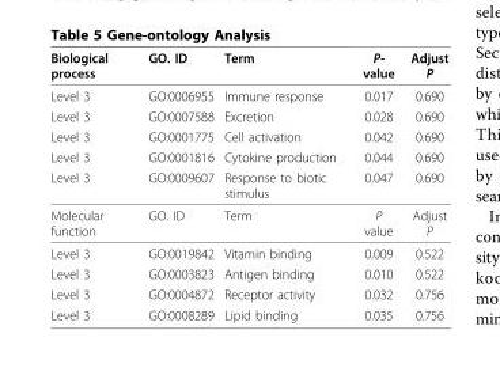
<table><thead><tr><td>Biological process</td><td>GO. ID</td><td>Term</td><td>P- value</td><td>Adjust P</td></tr></thead><tbody><tr><td>Level 3</td><td>GO:0006955</td><td>Immune response</td><td>0.017</td><td>0.690</td></tr><tr><td>Level 3</td><td>GO:0007588</td><td>Excretion</td><td>0.028</td><td>0.690</td></tr><tr><td>Level 3</td><td>GO:0001775</td><td>Cell activation</td><td>0.042</td><td>0.690</td></tr><tr><td>Level 3</td><td>GO:0001816</td><td>Cytokine production</td><td>0.044</td><td>0.690</td></tr><tr><td>Level 3</td><td>GO:0009607</td><td>Response to biotic stimulus</td><td>0.047</td><td>0.690</td></tr><tr><td>Molecular function</td><td>GO. ID</td><td>Term</td><td>P value</td><td>Adjust P</td></tr><tr><td>Level 3</td><td>GO:0019842</td><td>Vitamin binding</td><td>0.009</td><td>0.522</td></tr><tr><td>Level 3</td><td>GO:0003823</td><td>Antigen binding</td><td>0.010</td><td>0.522</td></tr><tr><td>Level 3</td><td>GO:0004872</td><td>Receptor activity</td><td>0.032</td><td>0.756</td></tr><tr><td>Level 3</td><td>GO:0008289</td><td>Lipid binding</td><td>0.035</td><td>0.756</td></tr></tbody></table>